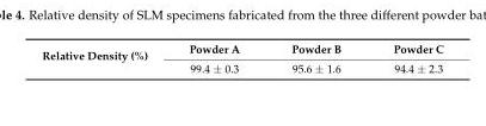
<table><tbody><tr><td rowspan="2">Relative Density (%)</td><td>Powder A</td><td>Powder B</td><td>Powder C</td></tr><tr><td>99.4 ± 0.3</td><td>95.6 ± 1.6</td><td>94.4 ± 2.3</td></tr></tbody></table>